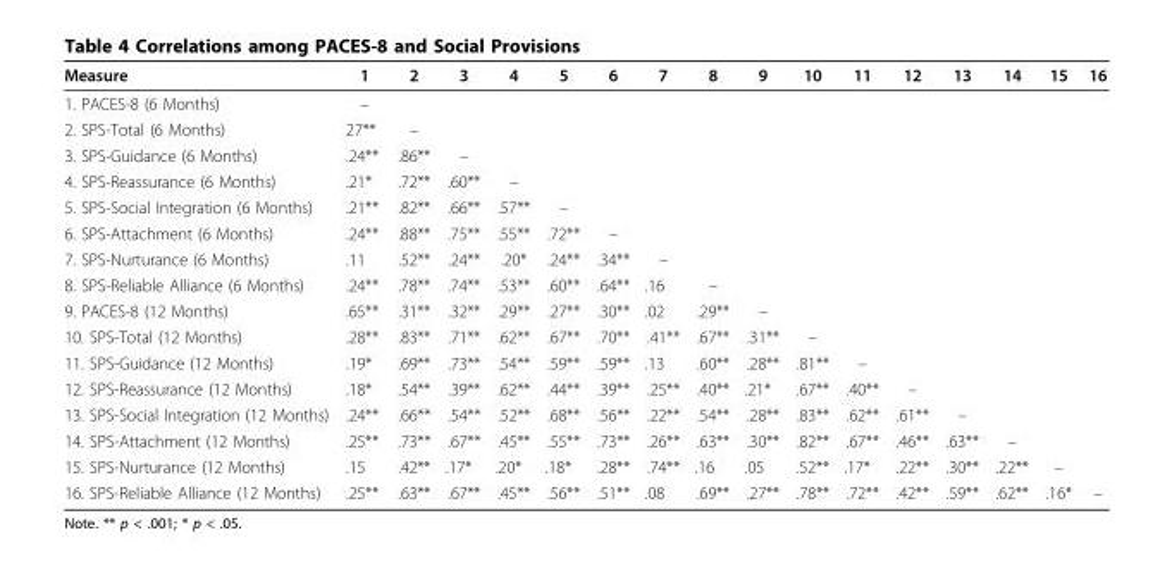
<table><thead><tr><td>Measure</td><td>1</td><td>2</td><td>3</td><td>4</td><td>5</td><td>6</td><td>7</td><td>8</td><td>9</td><td>10</td><td>11</td><td>12</td><td>13</td><td>14</td><td>15</td><td>16</td></tr></thead><tbody><tr><td>1. PACES-8 (6 Months)</td><td>–</td><td></td><td></td><td></td><td></td><td></td><td></td><td></td><td></td><td></td><td></td><td></td><td></td><td></td><td></td><td></td></tr><tr><td>2. SPS-Total (6 Months)</td><td>27**</td><td>–</td><td></td><td></td><td></td><td></td><td></td><td></td><td></td><td></td><td></td><td></td><td></td><td></td><td></td><td></td></tr><tr><td>3. SPS-Guidance (6 Months)</td><td>.24**</td><td>.86**</td><td>–</td><td></td><td></td><td></td><td></td><td></td><td></td><td></td><td></td><td></td><td></td><td></td><td></td><td></td></tr><tr><td>4. SPS-Reassurance (6 Months)</td><td>.21*</td><td>.72**</td><td>.60**</td><td>–</td><td></td><td></td><td></td><td></td><td></td><td></td><td></td><td></td><td></td><td></td><td></td><td></td></tr><tr><td>5. SPS-Social Integration (6 Months)</td><td>.21**</td><td>.82**</td><td>.66**</td><td>.57**</td><td>–</td><td></td><td></td><td></td><td></td><td></td><td></td><td></td><td></td><td></td><td></td><td></td></tr><tr><td>6. SPS-Attachment (6 Months)</td><td>.24**</td><td>.88**</td><td>.75**</td><td>.55**</td><td>.72**</td><td>–</td><td></td><td></td><td></td><td></td><td></td><td></td><td></td><td></td><td></td><td></td></tr><tr><td>7. SPS-Nurturance (6 Months)</td><td>.11</td><td>.52**</td><td>.24**</td><td>.20*</td><td>.24**</td><td>.34**</td><td>–</td><td></td><td></td><td></td><td></td><td></td><td></td><td></td><td></td><td></td></tr><tr><td>8. SPS-Reliable Alliance (6 Months)</td><td>.24**</td><td>.78**</td><td>.74**</td><td>.53**</td><td>.60**</td><td>.64**</td><td>.16</td><td>–</td><td></td><td></td><td></td><td></td><td></td><td></td><td></td><td></td></tr><tr><td>9. PACES-8 (12 Months)</td><td>.65**</td><td>.31**</td><td>.32**</td><td>.29**</td><td>.27**</td><td>.30**</td><td>.02</td><td>.29**</td><td>–</td><td></td><td></td><td></td><td></td><td></td><td></td><td></td></tr><tr><td>10. SPS-Total (12 Months)</td><td>.28**</td><td>.83**</td><td>.71**</td><td>.62**</td><td>.67**</td><td>.70**</td><td>.41**</td><td>.67**</td><td>.31**</td><td>–</td><td></td><td></td><td></td><td></td><td></td><td></td></tr><tr><td>11. SPS-Guidance (12 Months)</td><td>.19*</td><td>.69**</td><td>.73**</td><td>.54**</td><td>.59**</td><td>.59**</td><td>.13</td><td>.60**</td><td>.28**</td><td>.81**</td><td>–</td><td></td><td></td><td></td><td></td><td></td></tr><tr><td>12. SPS-Reassurance (12 Months)</td><td>.18*</td><td>.54**</td><td>.39**</td><td>.62**</td><td>.44**</td><td>.39**</td><td>.25**</td><td>.40**</td><td>.21*</td><td>.67**</td><td>.40**</td><td>–</td><td></td><td></td><td></td><td></td></tr><tr><td>13. SPS-Social Integration (12 Months)</td><td>.24**</td><td>.66**</td><td>.54**</td><td>.52**</td><td>.68**</td><td>.56**</td><td>.22**</td><td>.54**</td><td>.28**</td><td>.83**</td><td>.62**</td><td>.61**</td><td>–</td><td></td><td></td><td></td></tr><tr><td>14. SPS-Attachment (12 Months)</td><td>.25**</td><td>.73**</td><td>.67**</td><td>.45**</td><td>.55**</td><td>.73**</td><td>.26**</td><td>.63**</td><td>.30**</td><td>.82**</td><td>.67**</td><td>.46**</td><td>.63**</td><td>–</td><td></td><td></td></tr><tr><td>15. SPS-Nurturance (12 Months)</td><td>.15</td><td>.42**</td><td>.17*</td><td>.20*</td><td>.18*</td><td>.28**</td><td>.74**</td><td>.16</td><td>.05</td><td>.52**</td><td>.17*</td><td>.22**</td><td>.30**</td><td>.22**</td><td>–</td><td></td></tr><tr><td>16. SPS-Reliable Alliance (12 Months)</td><td>.25**</td><td>.63**</td><td>.67**</td><td>.45**</td><td>.56**</td><td>.51**</td><td>.08</td><td>.69**</td><td>.27**</td><td>.78**</td><td>.72**</td><td>.42**</td><td>.59**</td><td>.62**</td><td>.16*</td><td>–</td></tr></tbody></table>